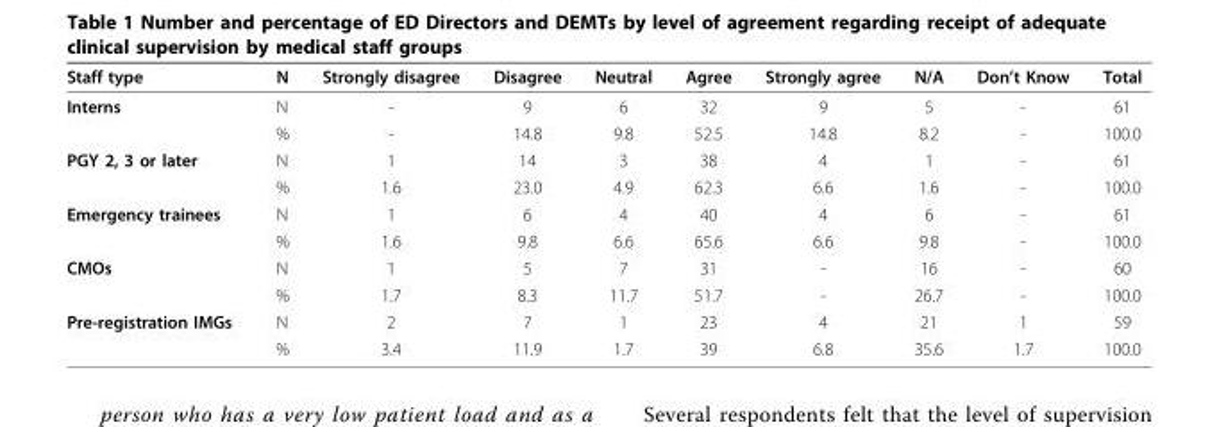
<table><thead><tr><td>Staff type</td><td>N</td><td>Strongly disagree</td><td>Disagree</td><td>Neutral</td><td>Agree</td><td>Strongly agree</td><td>N/A</td><td>Don’t Know</td><td>Total</td></tr></thead><tbody><tr><td rowspan="2">Interns</td><td>N</td><td>-</td><td>9</td><td>6</td><td>32</td><td>9</td><td>5</td><td>-</td><td>61</td></tr><tr><td>%</td><td>-</td><td>14.8</td><td>9.8</td><td>52.5</td><td>14.8</td><td>8.2</td><td>-</td><td>100.0</td></tr><tr><td rowspan="2">PGY 2, 3 or later</td><td>N</td><td>1</td><td>14</td><td>3</td><td>38</td><td>4</td><td>1</td><td>-</td><td>61</td></tr><tr><td>%</td><td>1.6</td><td>23.0</td><td>4.9</td><td>62.3</td><td>6.6</td><td>1.6</td><td>-</td><td>100.0</td></tr><tr><td rowspan="2">Emergency trainees</td><td>N</td><td>1</td><td>6</td><td>4</td><td>40</td><td>4</td><td>6</td><td>-</td><td>61</td></tr><tr><td>%</td><td>1.6</td><td>9.8</td><td>6.6</td><td>65.6</td><td>6.6</td><td>9.8</td><td>-</td><td>100.0</td></tr><tr><td rowspan="2">CMOs</td><td>N</td><td>1</td><td>5</td><td>7</td><td>31</td><td>-</td><td>16</td><td>-</td><td>60</td></tr><tr><td>%</td><td>1.7</td><td>8.3</td><td>11.7</td><td>51.7</td><td>-</td><td>26.7</td><td>-</td><td>100.0</td></tr><tr><td rowspan="2">Pre-registration IMGs</td><td>N</td><td>2</td><td>7</td><td>1</td><td>23</td><td>4</td><td>21</td><td>1</td><td>59</td></tr><tr><td>%</td><td>3.4</td><td>11.9</td><td>1.7</td><td>39</td><td>6.8</td><td>35.6</td><td>1.7</td><td>100.0</td></tr></tbody></table>